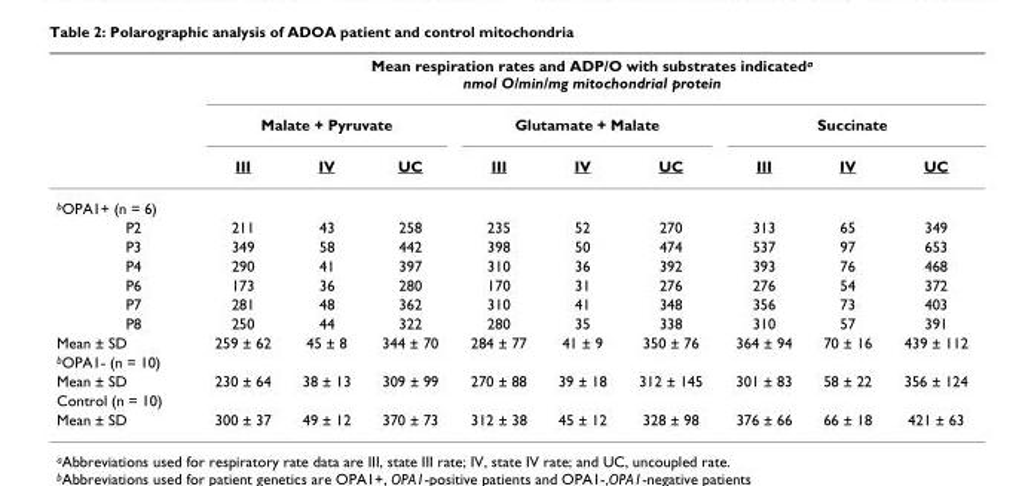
<table><thead><tr><td rowspan="3"></td><td colspan="9">Mean respiration rates and ADP/O with substrates indicated<sup>a</sup> nmol O/min/mg mitochondrial protein</td></tr><tr><td colspan="3">Malate + Pyruvate</td><td colspan="3">Glutamate + Malate</td><td colspan="3">Succinate</td></tr><tr><td>III</td><td>IV</td><td>UC</td><td>III</td><td>IV</td><td>UC</td><td>III</td><td>IV</td><td>UC</td></tr></thead><tbody><tr><td colspan="10"><sup>b</sup>OPA1+ (n = 6)</td></tr><tr><td>P2</td><td>211</td><td>43</td><td>258</td><td>235</td><td>52</td><td>270</td><td>313</td><td>65</td><td>349</td></tr><tr><td>P3</td><td>349</td><td>58</td><td>442</td><td>398</td><td>50</td><td>474</td><td>537</td><td>97</td><td>653</td></tr><tr><td>P4</td><td>290</td><td>41</td><td>397</td><td>310</td><td>36</td><td>392</td><td>393</td><td>76</td><td>468</td></tr><tr><td>P6</td><td>173</td><td>36</td><td>280</td><td>170</td><td>31</td><td>276</td><td>276</td><td>54</td><td>372</td></tr><tr><td>P7</td><td>281</td><td>48</td><td>362</td><td>310</td><td>41</td><td>348</td><td>356</td><td>73</td><td>403</td></tr><tr><td>P8</td><td>250</td><td>44</td><td>322</td><td>280</td><td>35</td><td>338</td><td>310</td><td>57</td><td>391</td></tr><tr><td>Mean ± SD</td><td>259 ± 62</td><td>45 ± 8</td><td>344 ± 70</td><td>284 ± 77</td><td>41 ± 9</td><td>350 ± 76</td><td>364 ± 94</td><td>70 ± 16</td><td>439 ± 112</td></tr><tr><td colspan="10"><sup>b</sup>OPA1- (n = 10)</td></tr><tr><td>Mean ± SD</td><td>230 ± 64</td><td>38 ± 13</td><td>309 ± 99</td><td>270 ± 88</td><td>39 ± 18</td><td>312 ± 145</td><td>301 ± 83</td><td>58 ± 22</td><td>356 ± 124</td></tr><tr><td colspan="10">Control (n = 10)</td></tr><tr><td>Mean ± SD</td><td>300 ± 37</td><td>49 ± 12</td><td>370 ± 73</td><td>312 ± 38</td><td>45 ± 12</td><td>328 ± 98</td><td>376 ± 66</td><td>66 ± 18</td><td>421 ± 63</td></tr></tbody></table>